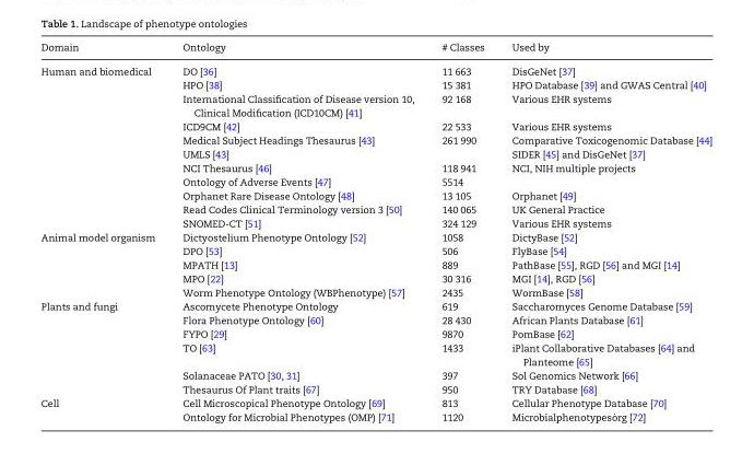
<table><thead><tr><td>Domain</td><td>Ontology</td><td># Classes</td><td>Used by</td></tr></thead><tbody><tr><td rowspan="11">Human and biomedical</td><td>DO [36]</td><td>11 663</td><td>DisGeNet [37]</td></tr><tr><td>HPO [38]</td><td>15 381</td><td>HPO Database [39] and GWAS Central [40]</td></tr><tr><td>International Classification of Disease version 10, Clinical Modification (ICD10CM) [41]</td><td>92 168</td><td>Various EHR systems</td></tr><tr><td>ICD9CM [42]</td><td>22 533</td><td>Various EHR systems</td></tr><tr><td>Medical Subject Headings Thesaurus [43]</td><td>261 990</td><td>Comparative Toxicogenomic Database [44]</td></tr><tr><td>UMLS [43]</td><td></td><td>SIDER [45] and DisGeNet [37]</td></tr><tr><td>NCI Thesaurus [46]</td><td>118 941</td><td>NCI, NIH multiple projects</td></tr><tr><td>Ontology of Adverse Events [47]</td><td>5514</td><td></td></tr><tr><td>Orphanet Rare Disease Ontology [48]</td><td>13 105</td><td>Orphanet [49]</td></tr><tr><td>Read Codes Clinical Terminology version 3 [50]</td><td>140 065</td><td>UK General Practice</td></tr><tr><td>SNOMED-CT [51]</td><td>324 129</td><td>Various EHR systems</td></tr><tr><td rowspan="5">Animal model organism</td><td>Dictyostelium Phenotype Ontology [52]</td><td>1058</td><td>DictyBase [52]</td></tr><tr><td>DPO [53]</td><td>506</td><td>FlyBase [54]</td></tr><tr><td>MPATH [13]</td><td>889</td><td>PathBase [55], RGD [56] and MGI [14]</td></tr><tr><td>MPO [22]</td><td>30 316</td><td>MGI [14], RGD [56]</td></tr><tr><td>Worm Phenotype Ontology (WBPhenotype) [57]</td><td>2435</td><td>WormBase [58]</td></tr><tr><td rowspan="6">Plants and fungi</td><td>Ascomycete Phenotype Ontology</td><td>619</td><td>Saccharomyces Genome Database [59]</td></tr><tr><td>Flora Phenotype Ontology [60]</td><td>28 430</td><td>African Plants Database [61]</td></tr><tr><td>FYPO [29]</td><td>9870</td><td>PomBase [62]</td></tr><tr><td>TO [63]</td><td>1433</td><td>iPlant Collaborative Databases [64] and Planteome [65]</td></tr><tr><td>Solanaceae PATO [30, 31]</td><td>397</td><td>Sol Genomics Network [66]</td></tr><tr><td>Thesaurus Of Plant traits [67]</td><td>950</td><td>TRY Database [68]</td></tr><tr><td rowspan="2">Cell</td><td>Cell Microscopical Phenotype Ontology [69]</td><td>813</td><td>Cellular Phenotype Database [70]</td></tr><tr><td>Ontology for Microbial Phenotypes (OMP) [71]</td><td>1120</td><td>Microbialphenotypes _org [72]</td></tr></tbody></table>